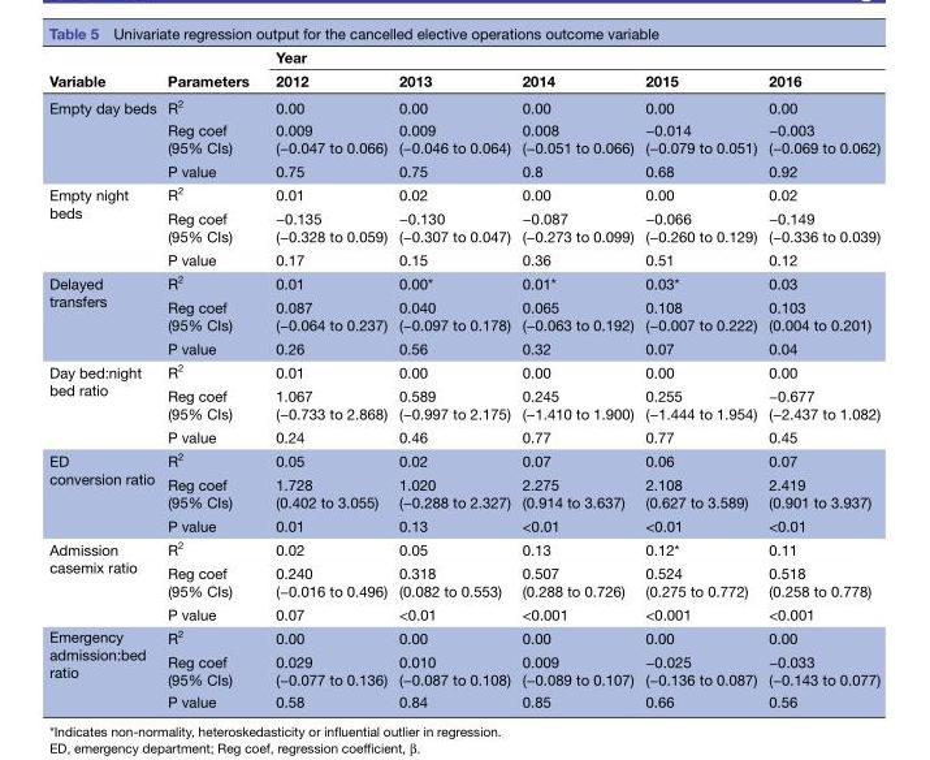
<table><thead><tr><td rowspan="2">Variable</td><td rowspan="2">Parameters</td><td colspan="5">Year</td></tr><tr><td>2012</td><td>2013</td><td>2014</td><td>2015</td><td>2016</td></tr></thead><tbody><tr><td rowspan="3">Empty day beds</td><td>R<sup>2</sup></td><td>0.00</td><td>0.00</td><td>0.00</td><td>0.00</td><td>0.00</td></tr><tr><td>Reg coef (95% CIs)</td><td>0.009 (−0.047 to 0.066)</td><td>0.009 (−0.046 to 0.064)</td><td>0.008 (−0.051 to 0.066)</td><td>−0.014 (−0.079 to 0.051)</td><td>−0.003 (−0.069 to 0.062)</td></tr><tr><td>P value</td><td>0.75</td><td>0.75</td><td>0.8</td><td>0.68</td><td>0.92</td></tr><tr><td rowspan="3">Empty night beds</td><td>R<sup>2</sup></td><td>0.01</td><td>0.02</td><td>0.00</td><td>0.00</td><td>0.02</td></tr><tr><td>Reg coef (95% CIs)</td><td>−0.135 (−0.328 to 0.059)</td><td>−0.130 (−0.307 to 0.047)</td><td>−0.087 (−0.273 to 0.099)</td><td>−0.066 (−0.260 to 0.129)</td><td>−0.149 (−0.336 to 0.039)</td></tr><tr><td>P value</td><td>0.17</td><td>0.15</td><td>0.36</td><td>0.51</td><td>0.12</td></tr><tr><td rowspan="3">Delayed transfers</td><td>R<sup>2</sup></td><td>0.01</td><td>0.00*</td><td>0.01*</td><td>0.03*</td><td>0.03</td></tr><tr><td>Reg coef (95% CIs)</td><td>0.087 (−0.064 to 0.237)</td><td>0.040 (−0.097 to 0.178)</td><td>0.065 (−0.063 to 0.192)</td><td>0.108 (−0.007 to 0.222)</td><td>0.103 (0.004 to 0.201)</td></tr><tr><td>P value</td><td>0.26</td><td>0.56</td><td>0.32</td><td>0.07</td><td>0.04</td></tr><tr><td rowspan="3">Day bed:night bed ratio</td><td>R<sup>2</sup></td><td>0.01</td><td>0.00</td><td>0.00</td><td>0.00</td><td>0.00</td></tr><tr><td>Reg coef (95% CIs)</td><td>1.067 (−0.733 to 2.868)</td><td>0.589 (−0.997 to 2.175)</td><td>0.245 (−1.410 to 1.900)</td><td>0.255 (−1.444 to 1.954)</td><td>−0.677 (−2.437 to 1.082)</td></tr><tr><td>P value</td><td>0.24</td><td>0.46</td><td>0.77</td><td>0.77</td><td>0.45</td></tr><tr><td rowspan="3">ED conversion ratio</td><td>R<sup>2</sup></td><td>0.05</td><td>0.02</td><td>0.07</td><td>0.06</td><td>0.07</td></tr><tr><td>Reg coef (95% CIs)</td><td>1.728 (0.402 to 3.055)</td><td>1.020 (−0.288 to 2.327)</td><td>2.275 (0.914 to 3.637)</td><td>2.108 (0.627 to 3.589)</td><td>2.419 (0.901 to 3.937)</td></tr><tr><td>P value</td><td>0.01</td><td>0.13</td><td>&lt;0.01</td><td>&lt;0.01</td><td>&lt;0.01</td></tr><tr><td rowspan="3">Admission casemix ratio</td><td>R<sup>2</sup></td><td>0.02</td><td>0.05</td><td>0.13</td><td>0.12*</td><td>0.11</td></tr><tr><td>Reg coef (95% CIs)</td><td>0.240 (−0.016 to 0.496)</td><td>0.318 (0.082 to 0.553)</td><td>0.507 (0.288 to 0.726)</td><td>0.524 (0.275 to 0.772)</td><td>0.518 (0.258 to 0.778)</td></tr><tr><td>P value</td><td>0.07</td><td>&lt;0.01</td><td>&lt;0.001</td><td>&lt;0.001</td><td>&lt;0.001</td></tr><tr><td rowspan="3">Emergency admission:bed ratio</td><td>R<sup>2</sup></td><td>0.00</td><td>0.00</td><td>0.00</td><td>0.00</td><td>0.00</td></tr><tr><td>Reg coef (95% CIs)</td><td>0.029 (−0.077 to 0.136)</td><td>0.010 (−0.087 to 0.108)</td><td>0.009 (−0.089 to 0.107)</td><td>−0.025 (−0.136 to 0.087)</td><td>−0.033 (−0.143 to 0.077)</td></tr><tr><td>P value</td><td>0.58</td><td>0.84</td><td>0.85</td><td>0.66</td><td>0.56</td></tr></tbody></table>